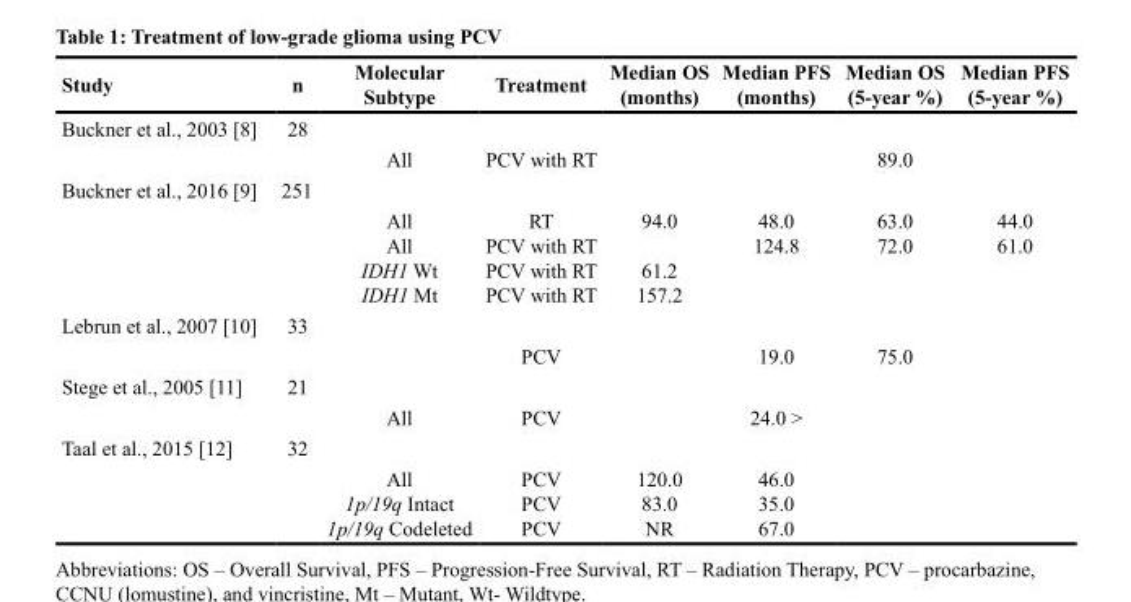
<table><thead><tr><td>Study</td><td>n</td><td>Molecular Subtype</td><td>Treatment</td><td>Median OS (months)</td><td>Median PFS (months)</td><td>Median OS (5-year %)</td><td>Median PFS (5-year %)</td></tr></thead><tbody><tr><td rowspan="2">Buckner et al., 2003 [8]</td><td>28</td><td></td><td></td><td></td><td></td><td></td><td></td></tr><tr><td></td><td>All</td><td>PCV with RT</td><td></td><td></td><td>89.0</td><td></td></tr><tr><td rowspan="2">Buckner et al., 2016 [9]</td><td>251</td><td></td><td></td><td></td><td></td><td></td><td></td></tr><tr><td></td><td>All All IDH1 Wt IDH1 Mt</td><td>RT PCV with RT PCV with RT PCV with RT</td><td>94.0 61.2 157.2</td><td>48.0 124.8</td><td>63.0 72.0</td><td>44.0 61.0</td></tr><tr><td rowspan="2">Lebrun et al., 2007 [10]</td><td>33</td><td></td><td></td><td></td><td></td><td></td><td></td></tr><tr><td></td><td></td><td>PCV</td><td></td><td>19.0</td><td>75.0</td><td></td></tr><tr><td rowspan="2">Stege et al., 2005 [11]</td><td>21</td><td></td><td></td><td></td><td></td><td></td><td></td></tr><tr><td></td><td>All</td><td>PCV</td><td></td><td>24.0 &gt;</td><td></td><td></td></tr><tr><td rowspan="2">Taal et al., 2015 [12]</td><td>32</td><td></td><td></td><td></td><td></td><td></td><td></td></tr><tr><td></td><td>All 1p/19q Intact 1p/19q Codeleted</td><td>PCV PCV PCV</td><td>120.0 83.0 NR</td><td>46.0 35.0 67.0</td><td></td><td></td></tr></tbody></table>